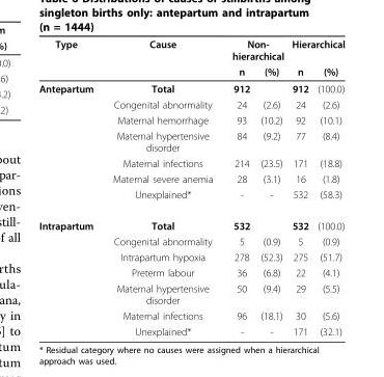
<table><thead><tr><td rowspan="2">Type</td><td rowspan="2">Cause</td><td colspan="2">Non- hierarchical</td><td colspan="2">Hierarchical</td></tr><tr><td>n</td><td>(%)</td><td>n</td><td>(%)</td></tr></thead><tbody><tr><td rowspan="7">Antepartum</td><td>Total</td><td>912</td><td></td><td>912</td><td>(100.0)</td></tr><tr><td>Congenital abnormality</td><td>24</td><td>(2.6)</td><td>24</td><td>(2.6)</td></tr><tr><td>Maternal hemorrhage</td><td>93</td><td>(10.2)</td><td>92</td><td>(10.1)</td></tr><tr><td>Maternal hypertensive disorder</td><td>84</td><td>(9.2)</td><td>77</td><td>(8.4)</td></tr><tr><td>Maternal infections</td><td>214</td><td>(23.5)</td><td>171</td><td>(18.8)</td></tr><tr><td>Maternal severe anemia</td><td>28</td><td>(3.1)</td><td>16</td><td>(1.8)</td></tr><tr><td>Unexplained*</td><td>-</td><td>-</td><td>532</td><td>(58.3)</td></tr><tr><td rowspan="7">Intrapartum</td><td>Total</td><td>532</td><td></td><td>532</td><td>(100.0)</td></tr><tr><td>Congenital abnormality</td><td>5</td><td>(0.9)</td><td>5</td><td>(0.9)</td></tr><tr><td>Intrapartum hypoxia</td><td>278</td><td>(52.3)</td><td>275</td><td>(51.7)</td></tr><tr><td>Preterm labour</td><td>36</td><td>(6.8)</td><td>22</td><td>(4.1)</td></tr><tr><td>Maternal hypertensive disorder</td><td>50</td><td>(9.4)</td><td>29</td><td>(5.5)</td></tr><tr><td>Maternal infections</td><td>96</td><td>(18.1)</td><td>30</td><td>(5.6)</td></tr><tr><td>Unexplained*</td><td>-</td><td>-</td><td>171</td><td>(32.1)</td></tr></tbody></table>